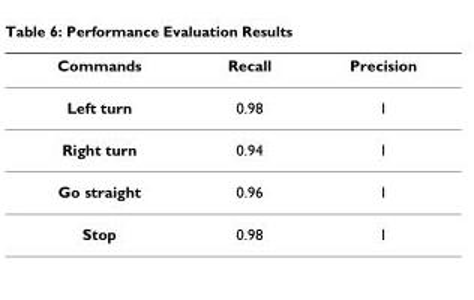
<table><thead><tr><td>Commands</td><td>Recall</td><td>Precision</td></tr></thead><tbody><tr><td>Left turn</td><td>0.98</td><td>1</td></tr><tr><td>Right turn</td><td>0.94</td><td>1</td></tr><tr><td>Go straight</td><td>0.96</td><td>1</td></tr><tr><td>Stop</td><td>0.98</td><td>1</td></tr></tbody></table>